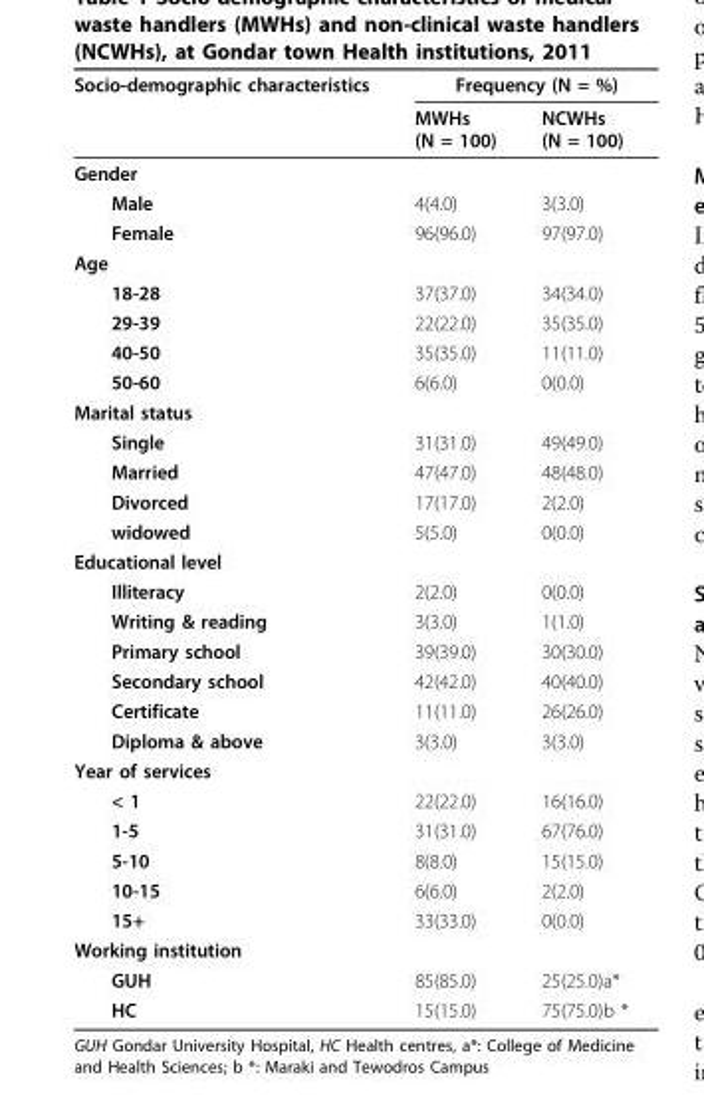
<table><thead><tr><td rowspan="2">Socio-demographic characteristics</td><td colspan="2">Frequency (N = %)</td></tr><tr><td>MWHs (N = 100)</td><td>NCWHs (N = 100)</td></tr></thead><tbody><tr><td colspan="3">Gender</td></tr><tr><td>Male</td><td>4(4.0)</td><td>3(3.0)</td></tr><tr><td>Female</td><td>96(96.0)</td><td>97(97.0)</td></tr><tr><td colspan="3">Age</td></tr><tr><td>18-28</td><td>37(37.0)</td><td>34(34.0)</td></tr><tr><td>29-39</td><td>22(22.0)</td><td>35(35.0)</td></tr><tr><td>40-50</td><td>35(35.0)</td><td>11(11.0)</td></tr><tr><td>50-60</td><td>6(6.0)</td><td>0(0.0)</td></tr><tr><td colspan="3">Marital status</td></tr><tr><td>Single</td><td>31(31.0)</td><td>49(49.0)</td></tr><tr><td>Married</td><td>47(47.0)</td><td>48(48.0)</td></tr><tr><td>Divorced</td><td>17(17.0)</td><td>2(2.0)</td></tr><tr><td>widowed</td><td>5(5.0)</td><td>0(0.0)</td></tr><tr><td colspan="3">Educational level</td></tr><tr><td>Illiteracy</td><td>2(2.0)</td><td>0(0.0)</td></tr><tr><td>Writing &amp; reading</td><td>3(3.0)</td><td>1(1.0)</td></tr><tr><td>Primary school</td><td>39(39.0)</td><td>30(30.0)</td></tr><tr><td>Secondary school</td><td>42(42.0)</td><td>40(40.0)</td></tr><tr><td>Certificate</td><td>11(11.0)</td><td>26(26.0)</td></tr><tr><td>Diploma &amp; above</td><td>3(3.0)</td><td>3(3.0)</td></tr><tr><td colspan="3">Year of services</td></tr><tr><td>&lt; 1</td><td>22(22.0)</td><td>16(16.0)</td></tr><tr><td>1-5</td><td>31(31.0)</td><td>67(76.0)</td></tr><tr><td>5-10</td><td>8(8.0)</td><td>15(15.0)</td></tr><tr><td>10-15</td><td>6(6.0)</td><td>2(2.0)</td></tr><tr><td>15+</td><td>33(33.0)</td><td>0(0.0)</td></tr><tr><td colspan="3">Working institution</td></tr><tr><td>GUH</td><td>85(85.0)</td><td>25(25.0)a*</td></tr><tr><td>HC</td><td>15(15.0)</td><td>75(75.0)b *</td></tr></tbody></table>